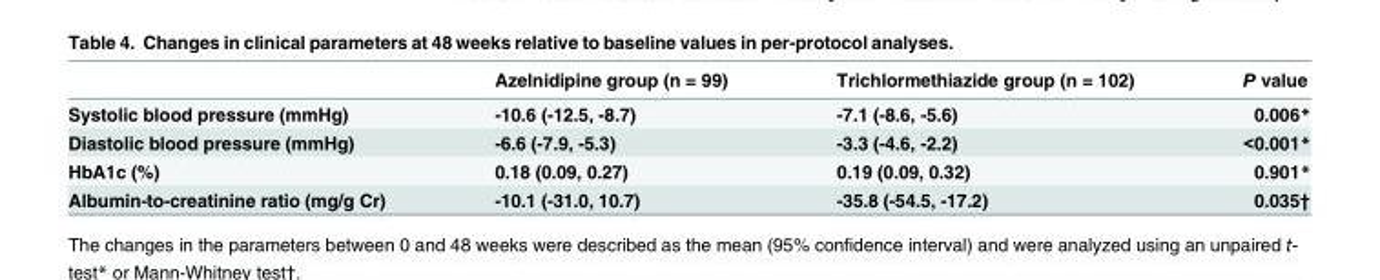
<table><thead><tr><td></td><td>Azelnidipine group (n = 99)</td><td>Trichlormethiazide group (n = 102)</td><td>P value</td></tr></thead><tbody><tr><td>Systolic blood pressure (mmHg)</td><td>-10.6 (-12.5, -8.7)</td><td>-7.1 (-8.6, -5.6)</td><td>0.006*</td></tr><tr><td>Diastolic blood pressure (mmHg)</td><td>-6.6 (-7.9, -5.3)</td><td>-3.3 (-4.6, -2.2)</td><td>&lt;0.001*</td></tr><tr><td>HbA1c (%)</td><td>0.18 (0.09, 0.27)</td><td>0.19 (0.09, 0.32)</td><td>0.901*</td></tr><tr><td>Albumin-to-creatinine ratio (mg/g Cr)</td><td>-10.1 (-31.0, 10.7)</td><td>-35.8 (-54.5, -17.2)</td><td>0.035†</td></tr></tbody></table>